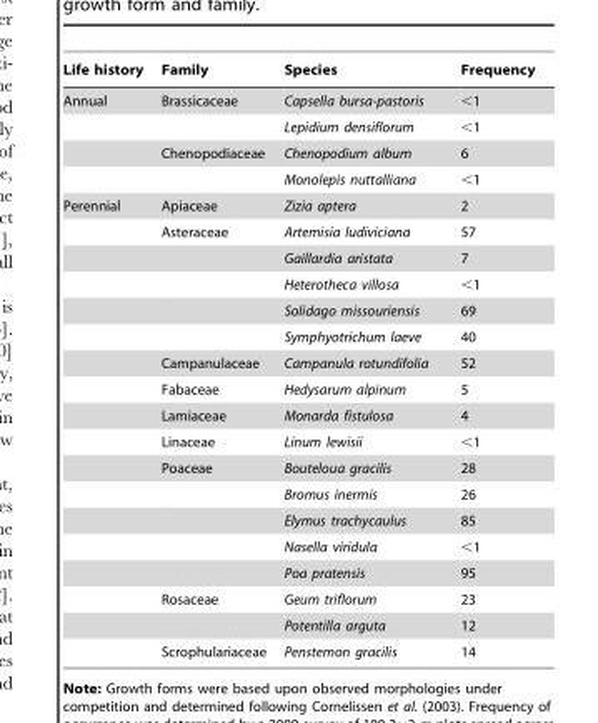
<table><thead><tr><td>Life history</td><td>Family</td><td>Species</td><td>Frequency</td></tr></thead><tbody><tr><td rowspan="4">Annual</td><td>Brassicaceae</td><td>Capsella bursa-pastoris</td><td>&lt;1</td></tr><tr><td></td><td>Lepidium densiflorum</td><td>&lt;1</td></tr><tr><td>Chenopodiaceae</td><td>Chenopodium album</td><td>6</td></tr><tr><td></td><td>Monolepis nuttalliana</td><td>&lt;1</td></tr><tr><td rowspan="18">Perennial</td><td>Apiaceae</td><td>Zizia aptera</td><td>2</td></tr><tr><td>Asteraceae</td><td>Artemisia ludiviciana</td><td>57</td></tr><tr><td></td><td>Gaillardia aristata</td><td>7</td></tr><tr><td></td><td>Heterotheca villosa</td><td>&lt;1</td></tr><tr><td></td><td>Solidago missouriensis</td><td>69</td></tr><tr><td></td><td>Symphyotrichum laeve</td><td>40</td></tr><tr><td>Campanulaceae</td><td>Campanula rotundifolia</td><td>52</td></tr><tr><td>Fabaceae</td><td>Hedysarum alpinum</td><td>5</td></tr><tr><td>Lamiaceae</td><td>Monarda fistulosa</td><td>4</td></tr><tr><td>Linaceae</td><td>Linum lewisii</td><td>&lt;1</td></tr><tr><td>Poaceae</td><td>Bouteloua gracilis</td><td>28</td></tr><tr><td></td><td>Bromus inermis</td><td>26</td></tr><tr><td></td><td>Elymus trachycaulus</td><td>85</td></tr><tr><td></td><td>Nasella viridula</td><td>&lt;1</td></tr><tr><td></td><td>Poa pratensis</td><td>95</td></tr><tr><td>Rosaceae</td><td>Geum triflorum</td><td>23</td></tr><tr><td></td><td>Potentilla arguta</td><td>12</td></tr><tr><td>Scrophulariaceae</td><td>Penstemon gracilis</td><td>14</td></tr></tbody></table>